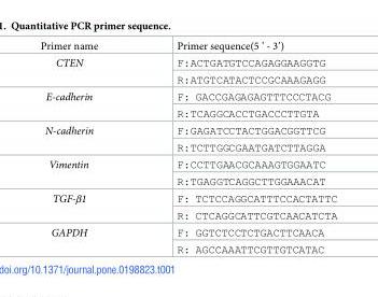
<table><tbody><tr><td>Primer name</td><td>Primer sequence(5 ’ - 3’)</td></tr><tr><td rowspan="2">CTEN</td><td>F:ACTGATGTCCAGAGGAAGGTG</td></tr><tr><td>R:ATGTCATACTCCGCAAAGAGG</td></tr><tr><td rowspan="2">E-cadherin</td><td>F: GACCGAGAGAGTTTCCCTACG</td></tr><tr><td>R:TCAGGCACCTGACCCTTGTA</td></tr><tr><td rowspan="2">N-cadherin</td><td>F:GAGATCCTACTGGACGGTTCG</td></tr><tr><td>R:TCTTGGCGAATGATCTTAGGA</td></tr><tr><td rowspan="2">Vimentin</td><td>F:CCTTGAACGCAAAGTGGAATC</td></tr><tr><td>R:TGAGGTCAGGCTTGGAAACAT</td></tr><tr><td rowspan="2">TGF-β1</td><td>F: TCTCCAGGCATTTCCACTATTC</td></tr><tr><td>R: CTCAGGCATTCGTCAACATCTA</td></tr><tr><td rowspan="2">GAPDH</td><td>F: GGTCTCCTCTGACTTCAACA</td></tr><tr><td>R: AGCCAAATTCGTTGTCATAC</td></tr></tbody></table>